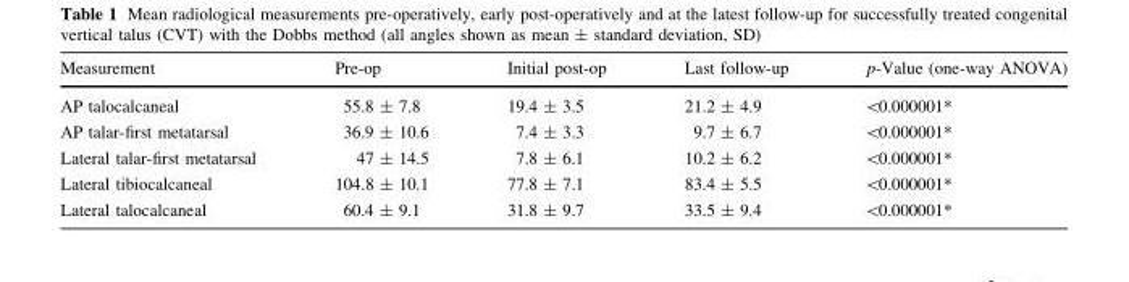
<table><thead><tr><td>Measurement</td><td>Pre-op</td><td>Initial post-op</td><td>Last follow-up</td><td>p-Value (one-way ANOVA)</td></tr></thead><tbody><tr><td>AP talocalcaneal</td><td>55.8 ± 7.8</td><td>19.4 ± 3.5</td><td>21.2 ± 4.9</td><td>&lt;0.000001*</td></tr><tr><td>AP talar-first metatarsal</td><td>36.9 ± 10.6</td><td>7.4 ± 3.3</td><td>9.7 ± 6.7</td><td>&lt;0.000001*</td></tr><tr><td>Lateral talar-first metatarsal</td><td>47 ± 14.5</td><td>7.8 ± 6.1</td><td>10.2 ± 6.2</td><td>&lt;0.000001*</td></tr><tr><td>Lateral tibiocalcaneal</td><td>104.8 ± 10.1</td><td>77.8 ± 7.1</td><td>83.4 ± 5.5</td><td>&lt;0.000001*</td></tr><tr><td>Lateral talocalcaneal</td><td>60.4 ± 9.1</td><td>31.8 ± 9.7</td><td>33.5 ± 9.4</td><td>&lt;0.000001*</td></tr></tbody></table>